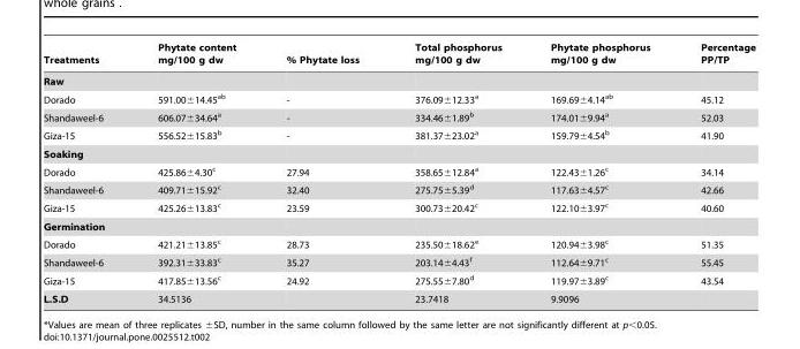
<table><thead><tr><td>Treatments</td><td>Phytate content mg/100 g dw</td><td>% Phytate loss</td><td>Total phosphorus mg/100 g dw</td><td>Phytate phosphorus mg/100 g dw</td><td>Percentage PP/TP</td></tr></thead><tbody><tr><td colspan="6">Raw</td></tr><tr><td>Dorado</td><td>591.00±14.45<sup>ab</sup></td><td>-</td><td>376.09±12.33<sup>a</sup></td><td>169.69±4.14<sup>ab</sup></td><td>45.12</td></tr><tr><td>Shandaweel-6</td><td>606.07±34.64<sup>a</sup></td><td>-</td><td>334.46±1.89<sup>b</sup></td><td>174.01±9.94<sup>a</sup></td><td>52.03</td></tr><tr><td>Giza-15</td><td>556.52±15.83<sup>b</sup></td><td>-</td><td>381.37±23.02<sup>a</sup></td><td>159.79±4.54<sup>b</sup></td><td>41.90</td></tr><tr><td colspan="6">Soaking</td></tr><tr><td>Dorado</td><td>425.86±4.30<sup>c</sup></td><td>27.94</td><td>358.65±12.84<sup>a</sup></td><td>122.43±1.26<sup>c</sup></td><td>34.14</td></tr><tr><td>Shandaweel-6</td><td>409.71±15.92<sup>c</sup></td><td>32.40</td><td>275.75±5.39<sup>d</sup></td><td>117.63±4.57<sup>c</sup></td><td>42.66</td></tr><tr><td>Giza-15</td><td>425.26±13.83<sup>c</sup></td><td>23.59</td><td>300.73±20.42<sup>c</sup></td><td>122.10±3.97<sup>c</sup></td><td>40.60</td></tr><tr><td colspan="6">Germination</td></tr><tr><td>Dorado</td><td>421.21±13.85<sup>c</sup></td><td>28.73</td><td>235.50±18.62<sup>e</sup></td><td>120.94±3.98<sup>c</sup></td><td>51.35</td></tr><tr><td>Shandaweel-6</td><td>392.31±33.83<sup>c</sup></td><td>35.27</td><td>203.14±4.43<sup>f</sup></td><td>112.64±9.71<sup>c</sup></td><td>55.45</td></tr><tr><td>Giza-15</td><td>417.85±13.56<sup>c</sup></td><td>24.92</td><td>275.55±7.80<sup>d</sup></td><td>119.97±3.89<sup>c</sup></td><td>43.54</td></tr><tr><td>L.S.D</td><td>34.5136</td><td></td><td>23.7418</td><td>9.9096</td><td></td></tr></tbody></table>